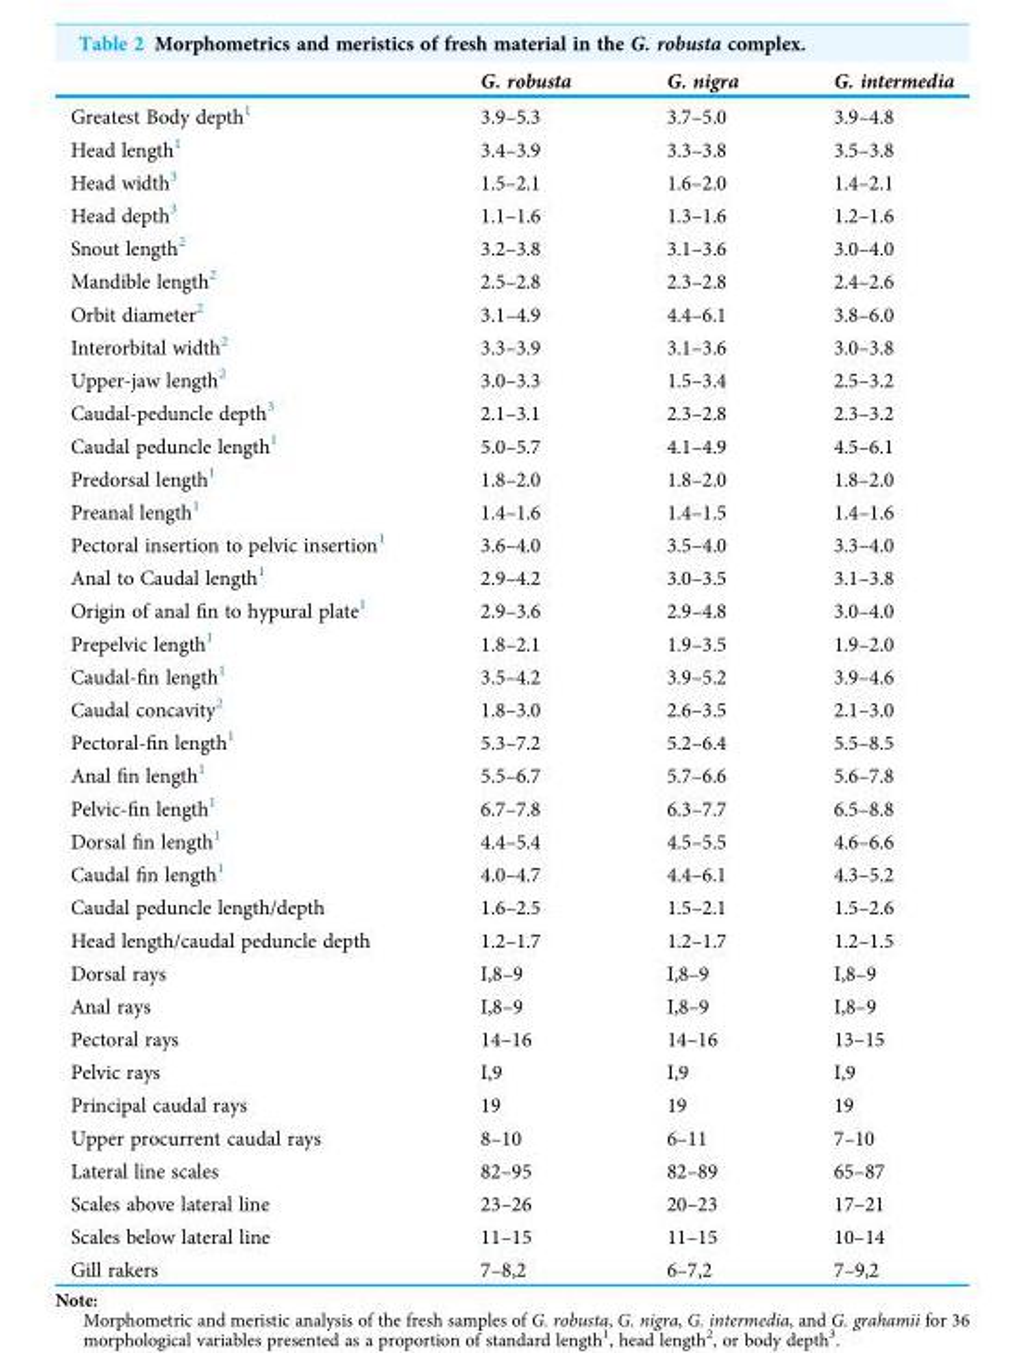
<table><thead><tr><td></td><td>G. robusta</td><td>G. nigra</td><td>G. intermedia</td></tr></thead><tbody><tr><td>Greatest Body depth<sup>1</sup></td><td>3.9–5.3</td><td>3.7–5.0</td><td>3.9–4.8</td></tr><tr><td>Head length<sup>1</sup></td><td>3.4–3.9</td><td>3.3–3.8</td><td>3.5–3.8</td></tr><tr><td>Head width<sup>3</sup></td><td>1.5–2.1</td><td>1.6–2.0</td><td>1.4–2.1</td></tr><tr><td>Head depth<sup>3</sup></td><td>1.1–1.6</td><td>1.3–1.6</td><td>1.2–1.6</td></tr><tr><td>Snout length<sup>2</sup></td><td>3.2–3.8</td><td>3.1–3.6</td><td>3.0–4.0</td></tr><tr><td>Mandible length<sup>2</sup></td><td>2.5–2.8</td><td>2.3–2.8</td><td>2.4–2.6</td></tr><tr><td>Orbit diameter<sup>2</sup></td><td>3.1–4.9</td><td>4.4–6.1</td><td>3.8–6.0</td></tr><tr><td>Interorbital width<sup>2</sup></td><td>3.3–3.9</td><td>3.1–3.6</td><td>3.0–3.8</td></tr><tr><td>Upper-jaw length<sup>2</sup></td><td>3.0–3.3</td><td>1.5–3.4</td><td>2.5–3.2</td></tr><tr><td>Caudal-peduncle depth<sup>3</sup></td><td>2.1–3.1</td><td>2.3–2.8</td><td>2.3–3.2</td></tr><tr><td>Caudal peduncle length<sup>1</sup></td><td>5.0–5.7</td><td>4.1–4.9</td><td>4.5–6.1</td></tr><tr><td>Predorsal length<sup>1</sup></td><td>1.8–2.0</td><td>1.8–2.0</td><td>1.8–2.0</td></tr><tr><td>Preanal length<sup>1</sup></td><td>1.4–1.6</td><td>1.4–1.5</td><td>1.4–1.6</td></tr><tr><td>Pectoral insertion to pelvic insertion<sup>1</sup></td><td>3.6–4.0</td><td>3.5–4.0</td><td>3.3–4.0</td></tr><tr><td>Anal to Caudal length<sup>1</sup></td><td>2.9–4.2</td><td>3.0–3.5</td><td>3.1–3.8</td></tr><tr><td>Origin of anal fin to hypural plate<sup>1</sup></td><td>2.9–3.6</td><td>2.9–4.8</td><td>3.0–4.0</td></tr><tr><td>Prepelvic length<sup>1</sup></td><td>1.8–2.1</td><td>1.9–3.5</td><td>1.9–2.0</td></tr><tr><td>Caudal-fin length<sup>1</sup></td><td>3.5–4.2</td><td>3.9–5.2</td><td>3.9–4.6</td></tr><tr><td>Caudal concavity<sup>2</sup></td><td>1.8–3.0</td><td>2.6–3.5</td><td>2.1–3.0</td></tr><tr><td>Pectoral-fin length<sup>1</sup></td><td>5.3–7.2</td><td>5.2–6.4</td><td>5.5–8.5</td></tr><tr><td>Anal fin length<sup>1</sup></td><td>5.5–6.7</td><td>5.7–6.6</td><td>5.6–7.8</td></tr><tr><td>Pelvic-fin length<sup>1</sup></td><td>6.7–7.8</td><td>6.3–7.7</td><td>6.5–8.8</td></tr><tr><td>Dorsal fin length<sup>1</sup></td><td>4.4–5.4</td><td>4.5–5.5</td><td>4.6–6.6</td></tr><tr><td>Caudal fin length<sup>1</sup></td><td>4.0–4.7</td><td>4.4–6.1</td><td>4.3–5.2</td></tr><tr><td>Caudal peduncle length/depth</td><td>1.6–2.5</td><td>1.5–2.1</td><td>1.5–2.6</td></tr><tr><td>Head length/caudal peduncle depth</td><td>1.2–1.7</td><td>1.2–1.7</td><td>1.2–1.5</td></tr><tr><td>Dorsal rays</td><td>I,8–9</td><td>I,8–9</td><td>I,8–9</td></tr><tr><td>Anal rays</td><td>I,8–9</td><td>I,8–9</td><td>I,8–9</td></tr><tr><td>Pectoral rays</td><td>14–16</td><td>14–16</td><td>13–15</td></tr><tr><td>Pelvic rays</td><td>I,9</td><td>I,9</td><td>I,9</td></tr><tr><td>Principal caudal rays</td><td>19</td><td>19</td><td>19</td></tr><tr><td>Upper procurrent caudal rays</td><td>8–10</td><td>6–11</td><td>7–10</td></tr><tr><td>Lateral line scales</td><td>82–95</td><td>82–89</td><td>65–87</td></tr><tr><td>Scales above lateral line</td><td>23–26</td><td>20–23</td><td>17–21</td></tr><tr><td>Scales below lateral line</td><td>11–15</td><td>11–15</td><td>10–14</td></tr><tr><td>Gill rakers</td><td>7–8,2</td><td>6–7,2</td><td>7–9,2</td></tr></tbody></table>